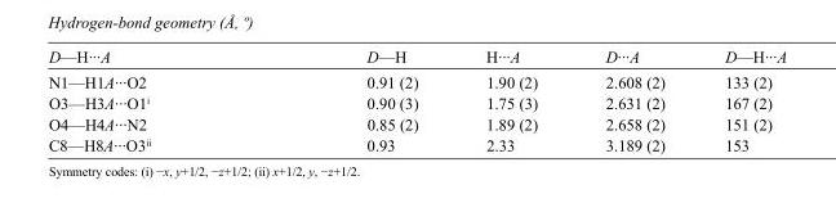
<table><tbody><tr><td>D—H···A</td><td>D—H</td><td>H···A</td><td>D···A</td><td>D—H···A</td></tr><tr><td>N1—H1A···O2</td><td>0.91 (2)</td><td>1.90 (2)</td><td>2.608 (2)</td><td>133 (2)</td></tr><tr><td>O3—H3A···O1<sup>i</sup></td><td>0.90 (3)</td><td>1.75 (3)</td><td>2.631 (2)</td><td>167 (2)</td></tr><tr><td>O4—H4A···N2</td><td>0.85 (2)</td><td>1.89 (2)</td><td>2.658 (2)</td><td>151 (2)</td></tr><tr><td>C8—H8A···O3<sup>ii</sup></td><td>0.93</td><td>2.33</td><td>3.189 (2)</td><td>153</td></tr></tbody></table>